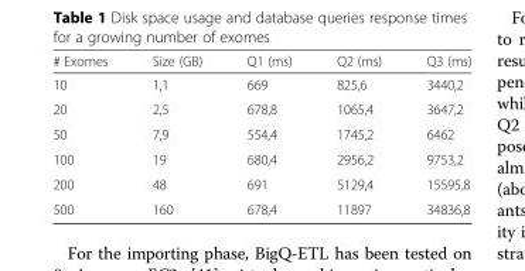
<table><thead><tr><td># Exomes</td><td>Size (GB)</td><td>Q1 (ms)</td><td>Q2 (ms)</td><td>Q3 (ms)</td></tr></thead><tbody><tr><td>10</td><td>1,1</td><td>669</td><td>825,6</td><td>3440,2</td></tr><tr><td>20</td><td>2,5</td><td>678,8</td><td>1065,4</td><td>3647,2</td></tr><tr><td>50</td><td>7,9</td><td>554,4</td><td>1745,2</td><td>6462</td></tr><tr><td>100</td><td>19</td><td>680,4</td><td>2956,2</td><td>9753,2</td></tr><tr><td>200</td><td>48</td><td>691</td><td>5129,4</td><td>15595,8</td></tr><tr><td>500</td><td>160</td><td>678,4</td><td>11897</td><td>34836,8</td></tr></tbody></table>